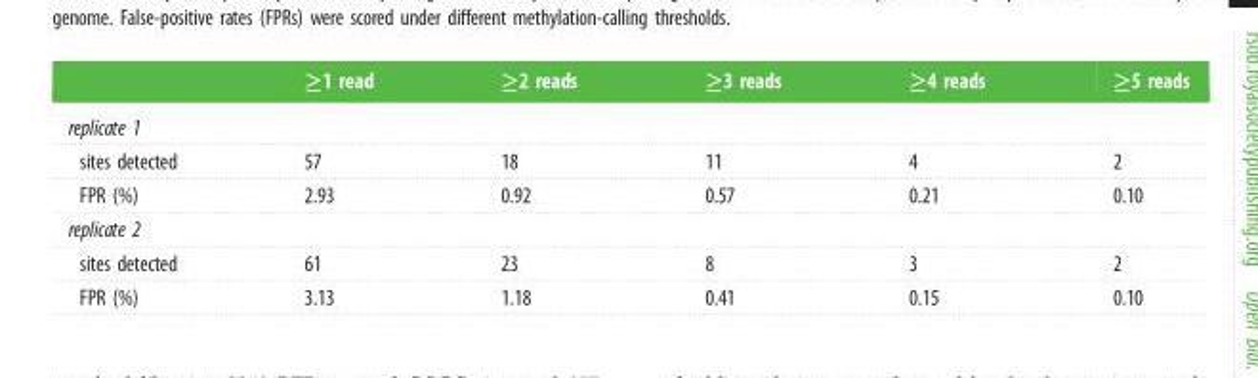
<table><thead><tr><td></td><td>≥1 read</td><td>≥2 reads</td><td>≥3 reads</td><td>≥4 reads</td><td>≥5 reads</td></tr></thead><tbody><tr><td colspan="6">replicate 1</td></tr><tr><td>sites detected</td><td>57</td><td>18</td><td>11</td><td>4</td><td>2</td></tr><tr><td>FPR (%)</td><td>2.93</td><td>0.92</td><td>0.57</td><td>0.21</td><td>0.10</td></tr><tr><td colspan="6">replicate 2</td></tr><tr><td>sites detected</td><td>61</td><td>23</td><td>8</td><td>3</td><td>2</td></tr><tr><td>FPR (%)</td><td>3.13</td><td>1.18</td><td>0.41</td><td>0.15</td><td>0.10</td></tr></tbody></table>